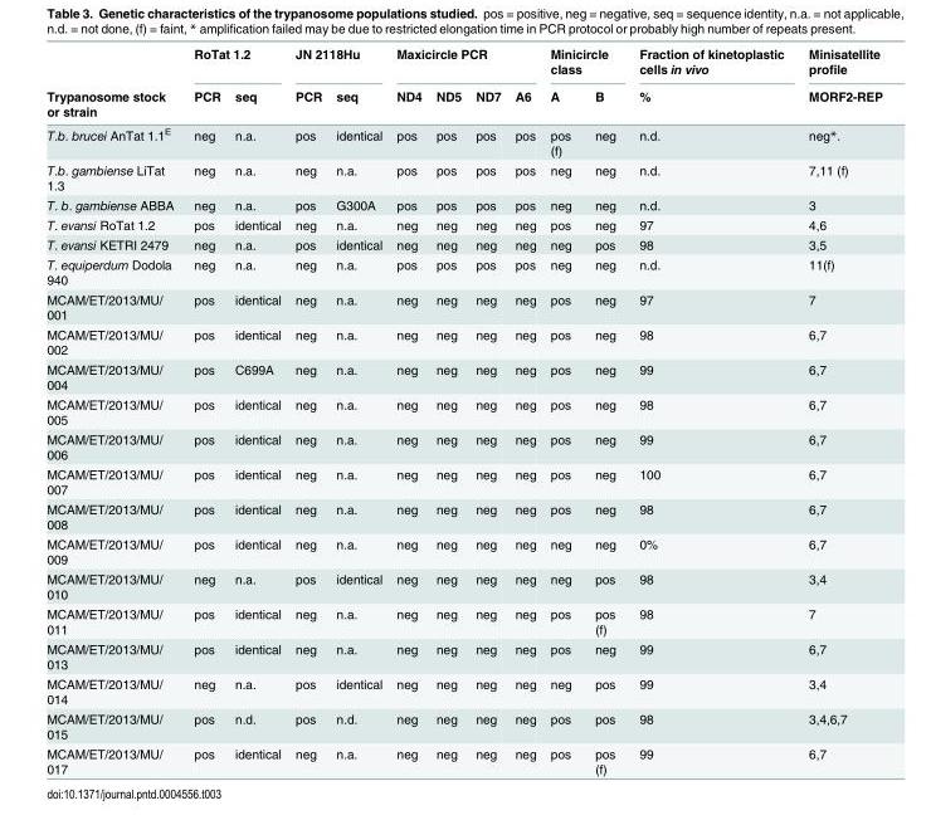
<table><thead><tr><td rowspan="2">Trypanosome stock or strain</td><td colspan="2">RoTat 1.2</td><td colspan="2">JN 2118Hu</td><td colspan="4">Maxicircle PCR</td><td colspan="2">Minicircle class</td><td rowspan="2">Fraction of kinetoplastic cells in vivo %</td><td rowspan="2">Minisatellite profile MORF2-REP</td></tr><tr><td>PCR</td><td>seq</td><td>PCR</td><td>seq</td><td>ND4</td><td>ND5</td><td>ND7</td><td>A6</td><td>A</td><td>B</td></tr></thead><tbody><tr><td>T.b. brucei AnTat 1.1<sup>E</sup></td><td>neg</td><td>n.a.</td><td>pos</td><td>identical</td><td>pos</td><td>pos</td><td>pos</td><td>pos</td><td>pos (f)</td><td>neg</td><td>n.d.</td><td>neg*.</td></tr><tr><td>T.b. gambiense LiTat 1.3</td><td>neg</td><td>n.a.</td><td>neg</td><td>n.a.</td><td>pos</td><td>pos</td><td>pos</td><td>pos</td><td>neg</td><td>neg</td><td>n.d.</td><td>7,11 (f)</td></tr><tr><td>T. b. gambiense ABBA</td><td>neg</td><td>n.a.</td><td>pos</td><td>G300A</td><td>pos</td><td>pos</td><td>pos</td><td>pos</td><td>neg</td><td>neg</td><td>n.d.</td><td>3</td></tr><tr><td>T. evansi RoTat 1.2</td><td>pos</td><td>identical</td><td>neg</td><td>n.a.</td><td>neg</td><td>neg</td><td>neg</td><td>neg</td><td>pos</td><td>neg</td><td>97</td><td>4,6</td></tr><tr><td>T. evansi KETRI 2479</td><td>neg</td><td>n.a.</td><td>pos</td><td>identical</td><td>neg</td><td>neg</td><td>neg</td><td>neg</td><td>neg</td><td>pos</td><td>98</td><td>3,5</td></tr><tr><td>T. equiperdum Dodola 940</td><td>neg</td><td>n.a.</td><td>neg</td><td>n.a.</td><td>pos</td><td>pos</td><td>pos</td><td>pos</td><td>neg</td><td>neg</td><td>n.d.</td><td>11(f)</td></tr><tr><td>MCAM/ET/2013/MU/ 001</td><td>pos</td><td>identical</td><td>neg</td><td>n.a.</td><td>neg</td><td>neg</td><td>neg</td><td>neg</td><td>pos</td><td>neg</td><td>97</td><td>7</td></tr><tr><td>MCAM/ET/2013/MU/ 002</td><td>pos</td><td>identical</td><td>neg</td><td>n.a.</td><td>neg</td><td>neg</td><td>neg</td><td>neg</td><td>pos</td><td>neg</td><td>98</td><td>6,7</td></tr><tr><td>MCAM/ET/2013/MU/ 004</td><td>pos</td><td>C699A</td><td>neg</td><td>n.a.</td><td>neg</td><td>neg</td><td>neg</td><td>neg</td><td>pos</td><td>neg</td><td>99</td><td>6,7</td></tr><tr><td>MCAM/ET/2013/MU/ 005</td><td>pos</td><td>identical</td><td>neg</td><td>n.a.</td><td>neg</td><td>neg</td><td>neg</td><td>neg</td><td>pos</td><td>neg</td><td>98</td><td>6,7</td></tr><tr><td>MCAM/ET/2013/MU/ 006</td><td>pos</td><td>identical</td><td>neg</td><td>n.a.</td><td>neg</td><td>neg</td><td>neg</td><td>neg</td><td>pos</td><td>neg</td><td>99</td><td>6,7</td></tr><tr><td>MCAM/ET/2013/MU/ 007</td><td>pos</td><td>identical</td><td>neg</td><td>n.a.</td><td>neg</td><td>neg</td><td>neg</td><td>neg</td><td>pos</td><td>neg</td><td>100</td><td>6,7</td></tr><tr><td>MCAM/ET/2013/MU/ 008</td><td>pos</td><td>identical</td><td>neg</td><td>n.a.</td><td>neg</td><td>neg</td><td>neg</td><td>neg</td><td>pos</td><td>neg</td><td>98</td><td>6,7</td></tr><tr><td>MCAM/ET/2013/MU/ 009</td><td>pos</td><td>identical</td><td>neg</td><td>n.a.</td><td>neg</td><td>neg</td><td>neg</td><td>neg</td><td>neg</td><td>neg</td><td>0%</td><td>6,7</td></tr><tr><td>MCAM/ET/2013/MU/ 010</td><td>neg</td><td>n.a.</td><td>pos</td><td>identical</td><td>neg</td><td>neg</td><td>neg</td><td>neg</td><td>neg</td><td>pos</td><td>98</td><td>3,4</td></tr><tr><td>MCAM/ET/2013/MU/ 011</td><td>pos</td><td>identical</td><td>neg</td><td>n.a.</td><td>neg</td><td>neg</td><td>neg</td><td>neg</td><td>pos</td><td>pos (f)</td><td>98</td><td>7</td></tr><tr><td>MCAM/ET/2013/MU/ 013</td><td>pos</td><td>identical</td><td>neg</td><td>n.a.</td><td>neg</td><td>neg</td><td>neg</td><td>neg</td><td>pos</td><td>neg</td><td>99</td><td>6,7</td></tr><tr><td>MCAM/ET/2013/MU/ 014</td><td>neg</td><td>n.a.</td><td>pos</td><td>identical</td><td>neg</td><td>neg</td><td>neg</td><td>neg</td><td>neg</td><td>pos</td><td>99</td><td>3,4</td></tr><tr><td>MCAM/ET/2013/MU/ 015</td><td>pos</td><td>n.d.</td><td>pos</td><td>n.d.</td><td>neg</td><td>neg</td><td>neg</td><td>neg</td><td>pos</td><td>pos</td><td>98</td><td>3,4,6,7</td></tr><tr><td>MCAM/ET/2013/MU/ 017</td><td>pos</td><td>identical</td><td>neg</td><td>n.a.</td><td>neg</td><td>neg</td><td>neg</td><td>neg</td><td>pos</td><td>pos (f)</td><td>99</td><td>6,7</td></tr></tbody></table>